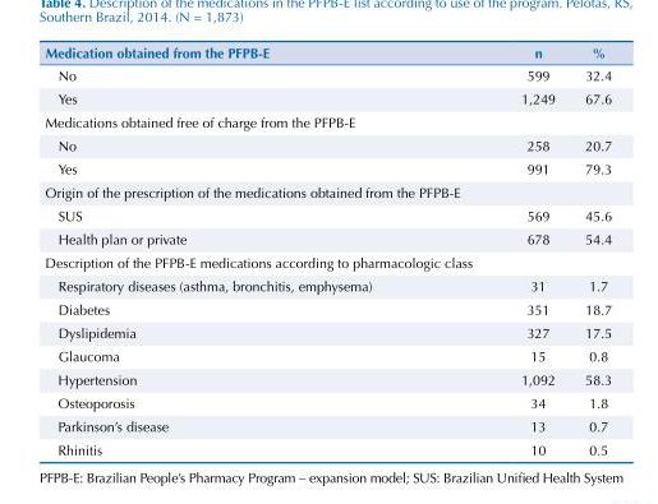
<table><thead><tr><td>Medication obtained from the PFPB-E</td><td>n</td><td>%</td></tr></thead><tbody><tr><td>No</td><td>599</td><td>32.4</td></tr><tr><td>Yes</td><td>1,249</td><td>67.6</td></tr><tr><td colspan="3">Medications obtained free of charge from the PFPB-E</td></tr><tr><td>No</td><td>258</td><td>20.7</td></tr><tr><td>Yes</td><td>991</td><td>79.3</td></tr><tr><td colspan="3">Origin of the prescription of the medications obtained from the PFPB-E</td></tr><tr><td>SUS</td><td>569</td><td>45.6</td></tr><tr><td>Health plan or private</td><td>678</td><td>54.4</td></tr><tr><td colspan="3">Description of the PFPB-E medications according to pharmacologic class</td></tr><tr><td>Respiratory diseases (asthma, bronchitis, emphysema)</td><td>31</td><td>1.7</td></tr><tr><td>Diabetes</td><td>351</td><td>18.7</td></tr><tr><td>Dyslipidemia</td><td>327</td><td>17.5</td></tr><tr><td>Glaucoma</td><td>15</td><td>0.8</td></tr><tr><td>Hypertension</td><td>1,092</td><td>58.3</td></tr><tr><td>Osteoporosis</td><td>34</td><td>1.8</td></tr><tr><td>Parkinson’s disease</td><td>13</td><td>0.7</td></tr><tr><td>Rhinitis</td><td>10</td><td>0.5</td></tr></tbody></table>